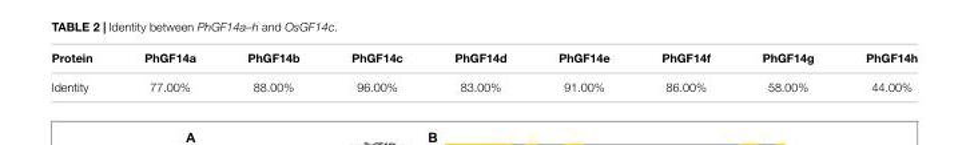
<table><thead><tr><td>Protein</td><td>PhGF14a</td><td>PhGF14b</td><td>PhGF14c</td><td>PhGF14d</td><td>PhGF14e</td><td>PhGF14f</td><td>PhGF14g</td><td>PhGF14h</td></tr></thead><tbody><tr><td>Identity</td><td>77.00%</td><td>88.00%</td><td>96.00%</td><td>83.00%</td><td>91.00%</td><td>86.00%</td><td>58.00%</td><td>44.00%</td></tr></tbody></table>